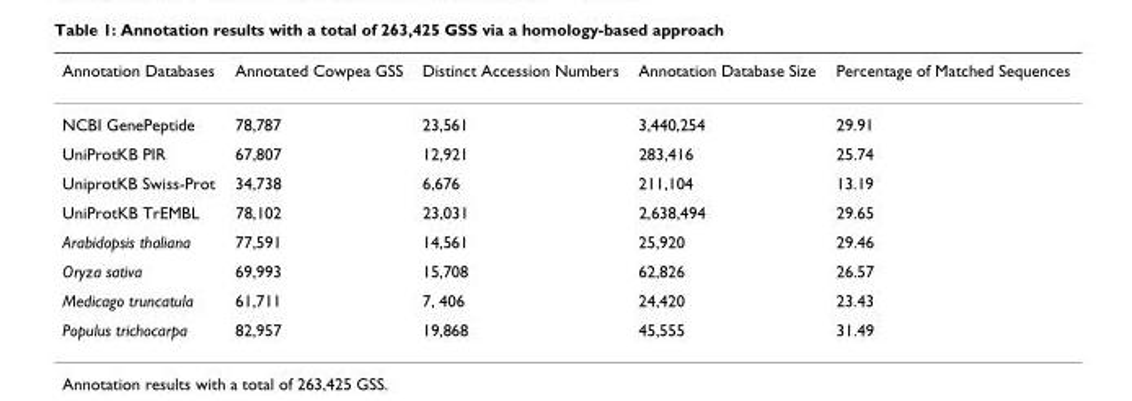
<table><thead><tr><td>Annotation Databases</td><td>Annotated Cowpea GSS</td><td>Distinct Accession Numbers</td><td>Annotation Database Size</td><td>Percentage of Matched Sequences</td></tr></thead><tbody><tr><td>NCBI GenePeptide</td><td>78,787</td><td>23,561</td><td>3,440,254</td><td>29.91</td></tr><tr><td>UniProtKB PIR</td><td>67,807</td><td>12,921</td><td>283,416</td><td>25.74</td></tr><tr><td>UniprotKB Swiss-Prot</td><td>34,738</td><td>6,676</td><td>211,104</td><td>13.19</td></tr><tr><td>UniProtKB TrEMBL</td><td>78,102</td><td>23,031</td><td>2,638,494</td><td>29.65</td></tr><tr><td>Arabidopsis thaliana</td><td>77,591</td><td>14,561</td><td>25,920</td><td>29.46</td></tr><tr><td>Oryza sativa</td><td>69,993</td><td>15,708</td><td>62,826</td><td>26.57</td></tr><tr><td>Medicago truncatula</td><td>61,711</td><td>7, 406</td><td>24,420</td><td>23.43</td></tr><tr><td>Populus trichocarpa</td><td>82,957</td><td>19,868</td><td>45,555</td><td>31.49</td></tr></tbody></table>